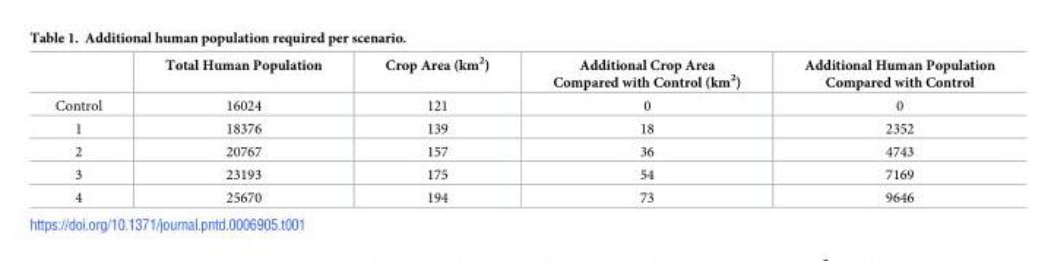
<table><thead><tr><td></td><td>Total Human Population</td><td>Crop Area (km<sup>2</sup>)</td><td>Additional Crop Area Compared with Control (km<sup>2</sup>)</td><td>Additional Human Population Compared with Control</td></tr></thead><tbody><tr><td>Control</td><td>16024</td><td>121</td><td>0</td><td>0</td></tr><tr><td>1</td><td>18376</td><td>139</td><td>18</td><td>2352</td></tr><tr><td>2</td><td>20767</td><td>157</td><td>36</td><td>4743</td></tr><tr><td>3</td><td>23193</td><td>175</td><td>54</td><td>7169</td></tr><tr><td>4</td><td>25670</td><td>194</td><td>73</td><td>9646</td></tr></tbody></table>